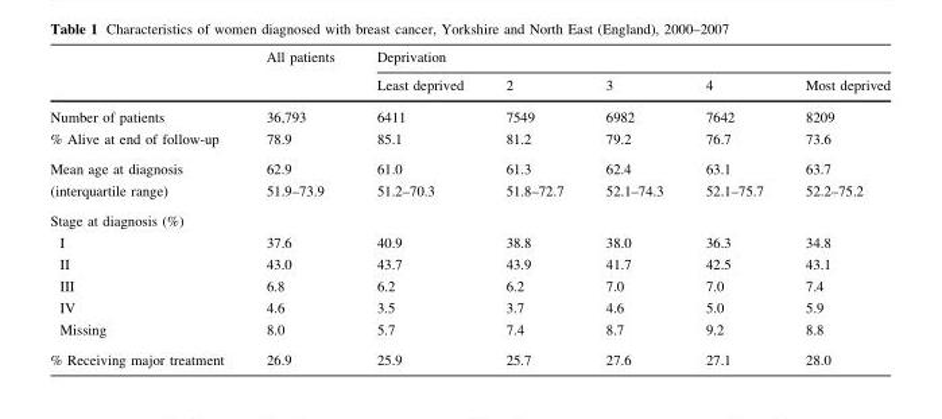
<table><thead><tr><td rowspan="2"></td><td rowspan="2">All patients</td><td colspan="5">Deprivation</td></tr><tr><td>Least deprived</td><td>2</td><td>3</td><td>4</td><td>Most deprived</td></tr></thead><tbody><tr><td>Number of patients</td><td>36,793</td><td>6411</td><td>7549</td><td>6982</td><td>7642</td><td>8209</td></tr><tr><td>% Alive at end of follow-up</td><td>78.9</td><td>85.1</td><td>81.2</td><td>79.2</td><td>76.7</td><td>73.6</td></tr><tr><td>Mean age at diagnosis</td><td>62.9</td><td>61.0</td><td>61.3</td><td>62.4</td><td>63.1</td><td>63.7</td></tr><tr><td>(interquartile range)</td><td>51.9–73.9</td><td>51.2–70.3</td><td>51.8–72.7</td><td>52.1–74.3</td><td>52.1–75.7</td><td>52.2–75.2</td></tr><tr><td colspan="7">Stage at diagnosis (%)</td></tr><tr><td>I</td><td>37.6</td><td>40.9</td><td>38.8</td><td>38.0</td><td>36.3</td><td>34.8</td></tr><tr><td>II</td><td>43.0</td><td>43.7</td><td>43.9</td><td>41.7</td><td>42.5</td><td>43.1</td></tr><tr><td>III</td><td>6.8</td><td>6.2</td><td>6.2</td><td>7.0</td><td>7.0</td><td>7.4</td></tr><tr><td>IV</td><td>4.6</td><td>3.5</td><td>3.7</td><td>4.6</td><td>5.0</td><td>5.9</td></tr><tr><td>Missing</td><td>8.0</td><td>5.7</td><td>7.4</td><td>8.7</td><td>9.2</td><td>8.8</td></tr><tr><td>% Receiving major treatment</td><td>26.9</td><td>25.9</td><td>25.7</td><td>27.6</td><td>27.1</td><td>28.0</td></tr></tbody></table>